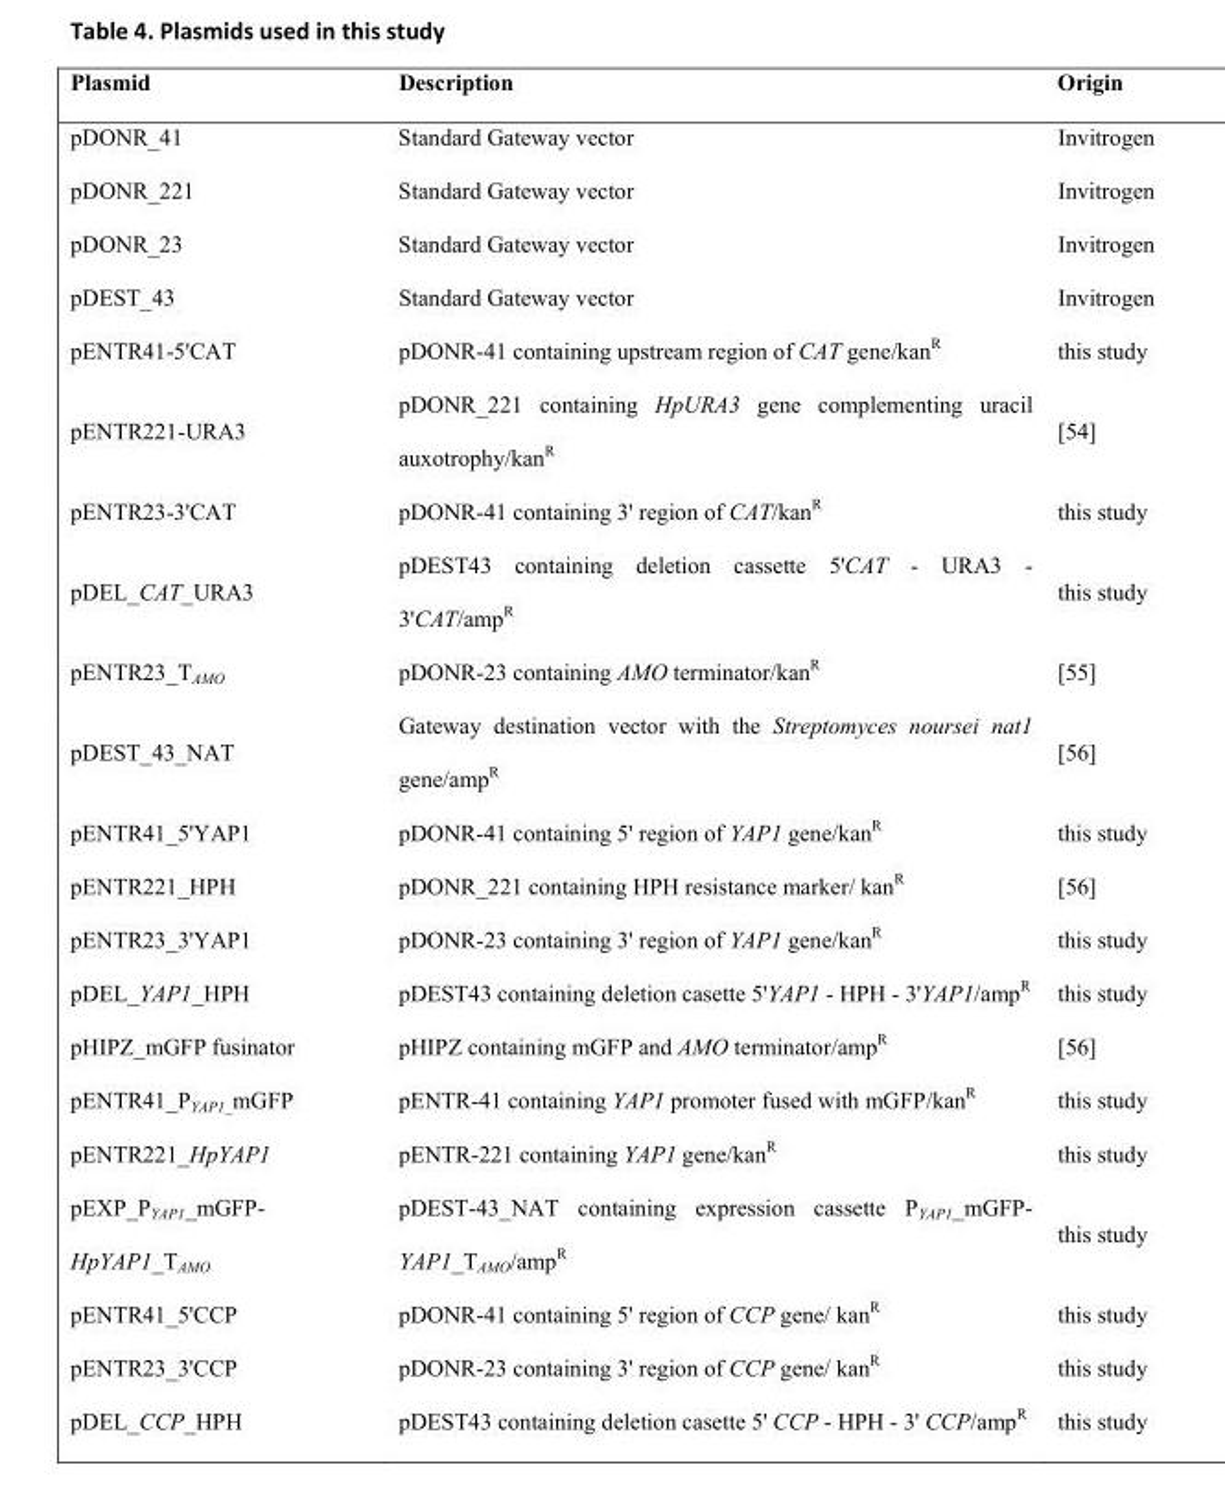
<table><thead><tr><td>Plasmid</td><td>Description</td><td>Origin</td></tr></thead><tbody><tr><td>pDONR_41</td><td>Standard Gateway vector</td><td>Invitrogen</td></tr><tr><td>pDONR_221</td><td>Standard Gateway vector</td><td>Invitrogen</td></tr><tr><td>pDONR_23</td><td>Standard Gateway vector</td><td>Invitrogen</td></tr><tr><td>pDEST_43</td><td>Standard Gateway vector</td><td>Invitrogen</td></tr><tr><td>pENTR41-5&#x27;CAT</td><td>pDONR-41 containing upstream region of CAT gene/kan<sup>R</sup></td><td>this study</td></tr><tr><td>pENTR221-URA3</td><td>pDONR_221 containing HpURA3 gene complementing uracil auxotrophy/kan<sup>R</sup></td><td>[54]</td></tr><tr><td>pENTR23-3&#x27;CAT</td><td>pDONR-41 containing 3&#x27; region of CAT/kan<sup>R</sup></td><td>this study</td></tr><tr><td>pDEL_CAT_URA3</td><td>pDEST43 containing deletion cassette 5&#x27;CAT - URA3 - 3&#x27;CAT/amp<sup>R</sup></td><td>this study</td></tr><tr><td>pENTR23_T<sub>AMO</sub></td><td>pDONR-23 containing AMO terminator/kan<sup>R</sup></td><td>[55]</td></tr><tr><td>pDEST_43_NAT</td><td>Gateway destination vector with the Streptomyces noursei nat1 gene/amp<sup>R</sup></td><td>[56]</td></tr><tr><td>pENTR41_5&#x27;YAP1</td><td>pDONR-41 containing 5&#x27; region of YAP1 gene/kan<sup>R</sup></td><td>this study</td></tr><tr><td>pENTR221_HPH</td><td>pDONR_221 containing HPH resistance marker/ kan<sup>R</sup></td><td>[56]</td></tr><tr><td>pENTR23_3&#x27;YAP1</td><td>pDONR-23 containing 3&#x27; region of YAP1 gene/kan<sup>R</sup></td><td>this study</td></tr><tr><td>pDEL_YAP1_HPH</td><td>pDEST43 containing deletion casette 5&#x27;YAP1 - HPH - 3&#x27;YAP1/amp<sup>R</sup></td><td>this study</td></tr><tr><td>pHIPZ_mGFP fusinator</td><td>pHIPZ containing mGFP and AMO terminator/amp<sup>R</sup></td><td>[56]</td></tr><tr><td>pENTR41_PYAP1_mGFP</td><td>pENTR-41 containing YAP1 promoter fused with mGFP/kan<sup>R</sup></td><td>this study</td></tr><tr><td>pENTR221_HpYAP1</td><td>pENTR-221 containing YAP1 gene/kan<sup>R</sup></td><td>this study</td></tr><tr><td>pEXP_PYAP1_mGFP- HpYAP1_TAMO</td><td>pDEST-43_NAT containing expression cassette PYAP1_mGFP- YAP1_TAMO/ampR</td><td>this study</td></tr><tr><td>pENTR41_5&#x27;CCP</td><td>pDONR-41 containing 5&#x27; region of CCP gene/ kan<sup>R</sup></td><td>this study</td></tr><tr><td>pENTR23_3&#x27;CCP</td><td>pDONR-23 containing 3&#x27; region of CCP gene/ kan<sup>R</sup></td><td>this study</td></tr><tr><td>pDEL_CCP_HPH</td><td>pDEST43 containing deletion casette 5&#x27; CCP - HPH - 3&#x27; CCP/amp<sup>R</sup></td><td>this study</td></tr></tbody></table>